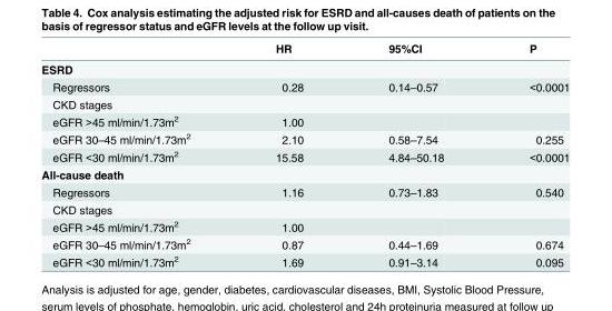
<table><thead><tr><td></td><td>HR</td><td>95%CI</td><td>P</td></tr></thead><tbody><tr><td colspan="4">ESRD</td></tr><tr><td>Regressors</td><td>0.28</td><td>0.14–0.57</td><td>&lt;0.0001</td></tr><tr><td colspan="4">CKD stages</td></tr><tr><td>eGFR &gt;45 ml/min/1.73m<sup>2</sup></td><td>1.00</td><td></td><td></td></tr><tr><td>eGFR 30–45 ml/min/1.73m<sup>2</sup></td><td>2.10</td><td>0.58–7.54</td><td>0.255</td></tr><tr><td>eGFR &lt;30 ml/min/1.73m<sup>2</sup></td><td>15.58</td><td>4.84–50.18</td><td>&lt;0.0001</td></tr><tr><td colspan="4">All-cause death</td></tr><tr><td>Regressors</td><td>1.16</td><td>0.73–1.83</td><td>0.540</td></tr><tr><td colspan="4">CKD stages</td></tr><tr><td>eGFR &gt;45 ml/min/1.73m<sup>2</sup></td><td>1.00</td><td></td><td></td></tr><tr><td>eGFR 30–45 ml/min/1.73m<sup>2</sup></td><td>0.87</td><td>0.44–1.69</td><td>0.674</td></tr><tr><td>eGFR &lt;30 ml/min/1.73m<sup>2</sup></td><td>1.69</td><td>0.91–3.14</td><td>0.095</td></tr></tbody></table>